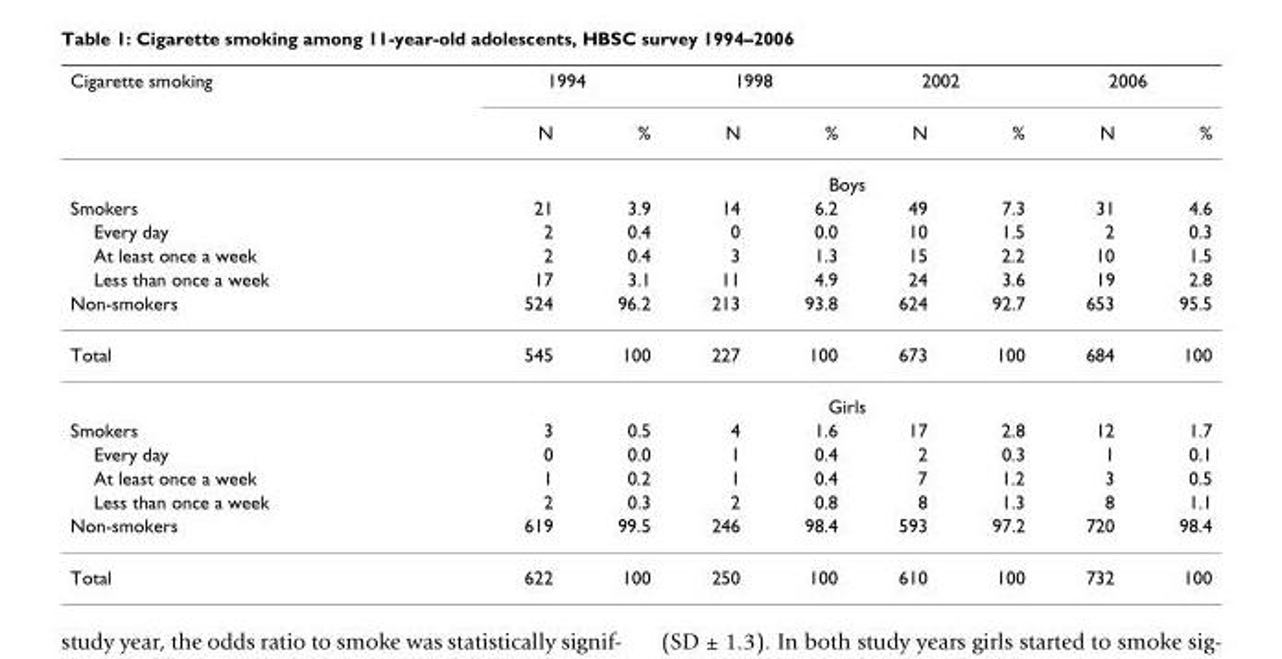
<table><thead><tr><td rowspan="2">Cigarette smoking</td><td colspan="2">1994</td><td colspan="2">1998</td><td colspan="2">2002</td><td colspan="2">2006</td></tr><tr><td>N</td><td>%</td><td>N</td><td>%</td><td>N</td><td>%</td><td>N</td><td>%</td></tr></thead><tbody><tr><td></td><td colspan="8">Boys</td></tr><tr><td>Smokers</td><td>21</td><td>3.9</td><td>14</td><td>6.2</td><td>49</td><td>7.3</td><td>31</td><td>4.6</td></tr><tr><td>Every day</td><td>2</td><td>0.4</td><td>0</td><td>0.0</td><td>10</td><td>1.5</td><td>2</td><td>0.3</td></tr><tr><td>At least once a week</td><td>2</td><td>0.4</td><td>3</td><td>1.3</td><td>15</td><td>2.2</td><td>10</td><td>1.5</td></tr><tr><td>Less than once a week</td><td>17</td><td>3.1</td><td>11</td><td>4.9</td><td>24</td><td>3.6</td><td>19</td><td>2.8</td></tr><tr><td>Non-smokers</td><td>524</td><td>96.2</td><td>213</td><td>93.8</td><td>624</td><td>92.7</td><td>653</td><td>95.5</td></tr><tr><td rowspan="2">Total</td><td>545</td><td>100</td><td>227</td><td>100</td><td>673</td><td>100</td><td>684</td><td>100</td></tr><tr><td colspan="8">Girls</td></tr><tr><td>Smokers</td><td>3</td><td>0.5</td><td>4</td><td>1.6</td><td>17</td><td>2.8</td><td>12</td><td>1.7</td></tr><tr><td>Every day</td><td>0</td><td>0.0</td><td>1</td><td>0.4</td><td>2</td><td>0.3</td><td>1</td><td>0.1</td></tr><tr><td>At least once a week</td><td>1</td><td>0.2</td><td>1</td><td>0.4</td><td>7</td><td>1.2</td><td>3</td><td>0.5</td></tr><tr><td>Less than once a week</td><td>2</td><td>0.3</td><td>2</td><td>0.8</td><td>8</td><td>1.3</td><td>8</td><td>1.1</td></tr><tr><td>Non-smokers</td><td>619</td><td>99.5</td><td>246</td><td>98.4</td><td>593</td><td>97.2</td><td>720</td><td>98.4</td></tr><tr><td>Total</td><td>622</td><td>100</td><td>250</td><td>100</td><td>610</td><td>100</td><td>732</td><td>100</td></tr></tbody></table>